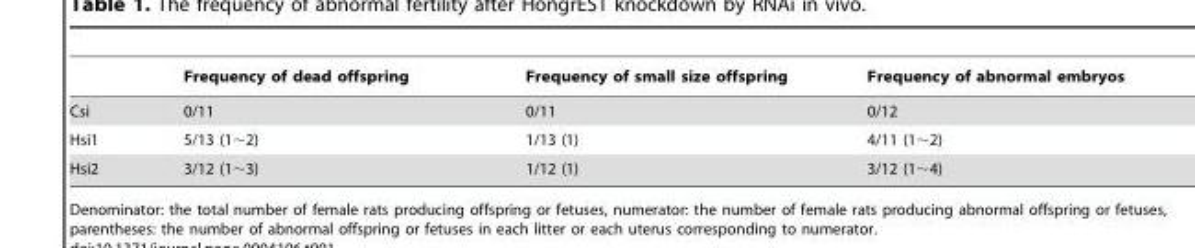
<table><thead><tr><td></td><td>Frequency of dead offspring</td><td>Frequency of small size offspring</td><td>Frequency of abnormal embryos</td></tr></thead><tbody><tr><td>Csi</td><td>0/11</td><td>0/11</td><td>0/12</td></tr><tr><td>Hsi1</td><td>5/13 (1∼2)</td><td>1/13 (1)</td><td>4/11 (1∼2)</td></tr><tr><td>Hsi2</td><td>3/12 (1∼3)</td><td>1/12 (1)</td><td>3/12 (1∼4)</td></tr></tbody></table>